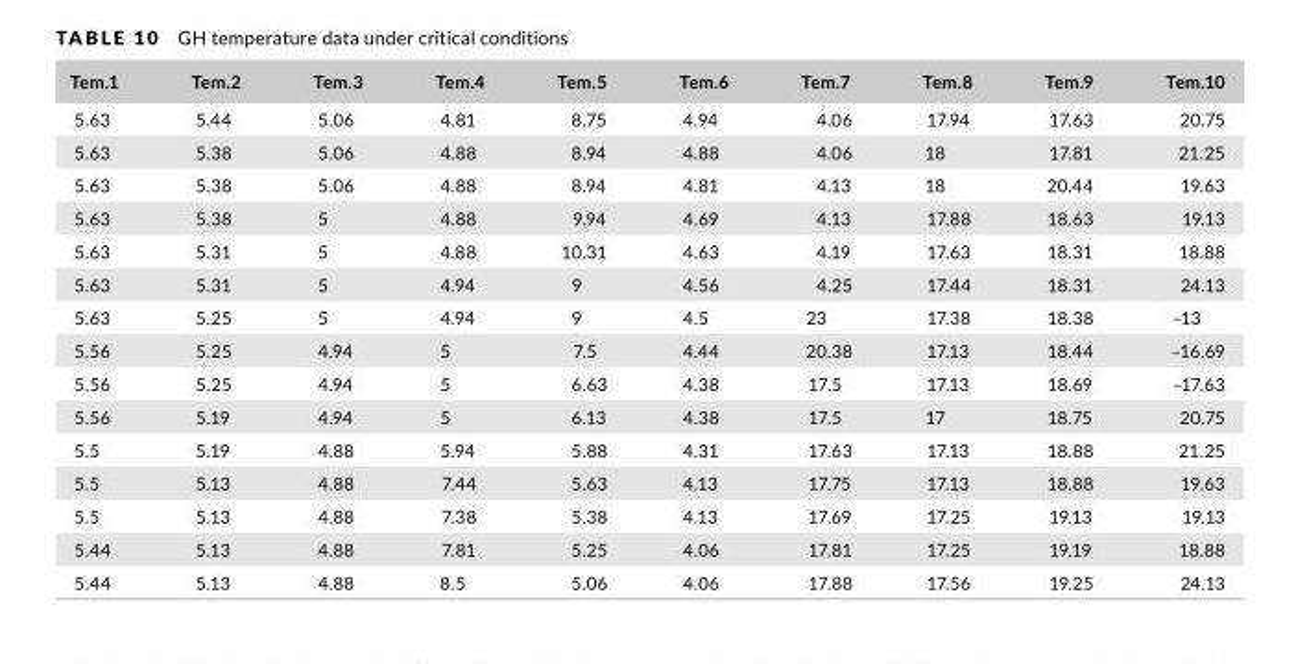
<table><thead><tr><td>Tem.1</td><td>Tem.2</td><td>Tem.3</td><td>Tem.4</td><td>Tem.5</td><td>Tem.6</td><td>Tem.7</td><td>Tem.8</td><td>Tem.9</td><td>Tem.10</td></tr></thead><tbody><tr><td>5.63</td><td>5.44</td><td>5.06</td><td>4.81</td><td>8.75</td><td>4.94</td><td>4.06</td><td>17.94</td><td>17.63</td><td>20.75</td></tr><tr><td>5.63</td><td>5.38</td><td>5.06</td><td>4.88</td><td>8.94</td><td>4.88</td><td>4.06</td><td>18</td><td>17.81</td><td>21.25</td></tr><tr><td>5.63</td><td>5.38</td><td>5.06</td><td>4.88</td><td>8.94</td><td>4.81</td><td>4.13</td><td>18</td><td>20.44</td><td>19.63</td></tr><tr><td>5.63</td><td>5.38</td><td>5</td><td>4.88</td><td>9.94</td><td>4.69</td><td>4.13</td><td>17.88</td><td>18.63</td><td>19.13</td></tr><tr><td>5.63</td><td>5.31</td><td>5</td><td>4.88</td><td>10.31</td><td>4.63</td><td>4.19</td><td>17.63</td><td>18.31</td><td>18.88</td></tr><tr><td>5.63</td><td>5.31</td><td>5</td><td>4.94</td><td>9</td><td>4.56</td><td>4.25</td><td>17.44</td><td>18.31</td><td>24.13</td></tr><tr><td>5.63</td><td>5.25</td><td>5</td><td>4.94</td><td>9</td><td>4.5</td><td>23</td><td>17.38</td><td>18.38</td><td>–13</td></tr><tr><td>5.56</td><td>5.25</td><td>4.94</td><td>5</td><td>7.5</td><td>4.44</td><td>20.38</td><td>17.13</td><td>18.44</td><td>–16.69</td></tr><tr><td>5.56</td><td>5.25</td><td>4.94</td><td>5</td><td>6.63</td><td>4.38</td><td>17.5</td><td>17.13</td><td>18.69</td><td>–17.63</td></tr><tr><td>5.56</td><td>5.19</td><td>4.94</td><td>5</td><td>6.13</td><td>4.38</td><td>17.5</td><td>17</td><td>18.75</td><td>20.75</td></tr><tr><td>5.5</td><td>5.19</td><td>4.88</td><td>5.94</td><td>5.88</td><td>4.31</td><td>17.63</td><td>17.13</td><td>18.88</td><td>21.25</td></tr><tr><td>5.5</td><td>5.13</td><td>4.88</td><td>7.44</td><td>5.63</td><td>4.13</td><td>17.75</td><td>17.13</td><td>18.88</td><td>19.63</td></tr><tr><td>5.5</td><td>5.13</td><td>4.88</td><td>7.38</td><td>5.38</td><td>4.13</td><td>17.69</td><td>17.25</td><td>19.13</td><td>19.13</td></tr><tr><td>5.44</td><td>5.13</td><td>4.88</td><td>7.81</td><td>5.25</td><td>4.06</td><td>17.81</td><td>17.25</td><td>19.19</td><td>18.88</td></tr><tr><td>5.44</td><td>5.13</td><td>4.88</td><td>8.5</td><td>5.06</td><td>4.06</td><td>17.88</td><td>17.56</td><td>19.25</td><td>24.13</td></tr></tbody></table>